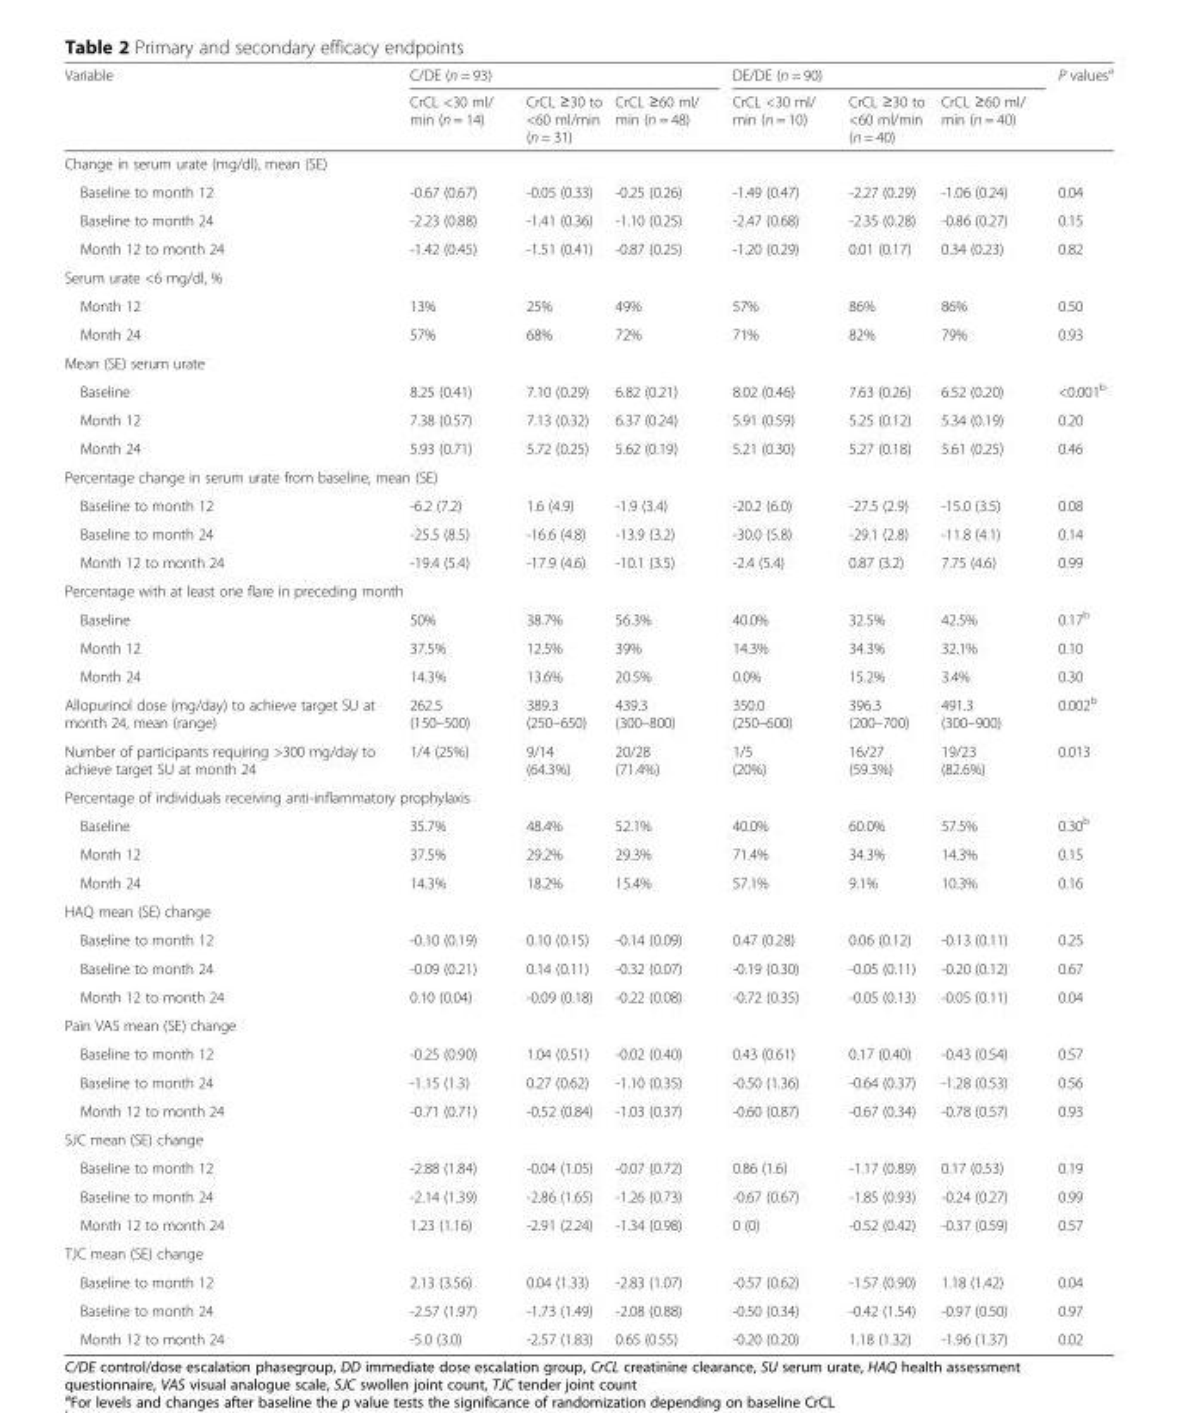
<table><thead><tr><td rowspan="2">Variable</td><td colspan="3">C/DE (n = 93)</td><td colspan="3">DE/DE (n = 90)</td><td rowspan="2">P values<sup>a</sup></td></tr><tr><td>CrCL &lt;30 ml/ min (n = 14)</td><td>CrCL ≥30 to &lt;60 ml/min (n = 31)</td><td>CrCL ≥60 ml/ min (n = 48)</td><td>CrCL &lt;30 ml/ min (n = 10)</td><td>CrCL ≥30 to &lt;60 ml/min (n = 40)</td><td>CrCL ≥60 ml/ min (n = 40)</td></tr></thead><tbody><tr><td colspan="8">Change in serum urate (mg/dl), mean (SE)</td></tr><tr><td>Baseline to month 12</td><td>-0.67 (0.67)</td><td>-0.05 (0.33)</td><td>-0.25 (0.26)</td><td>-1.49 (0.47)</td><td>-2.27 (0.29)</td><td>-1.06 (0.24)</td><td>0.04</td></tr><tr><td>Baseline to month 24</td><td>-2.23 (0.88)</td><td>-1.41 (0.36)</td><td>-1.10 (0.25)</td><td>-2.47 (0.68)</td><td>-2.35 (0.28)</td><td>-0.86 (0.27)</td><td>0.15</td></tr><tr><td>Month 12 to month 24</td><td>-1.42 (0.45)</td><td>-1.51 (0.41)</td><td>-0.87 (0.25)</td><td>-1.20 (0.29)</td><td>0.01 (0.17)</td><td>0.34 (0.23)</td><td>0.82</td></tr><tr><td colspan="8">Serum urate &lt;6 mg/dl, %</td></tr><tr><td>Month 12</td><td>13%</td><td>25%</td><td>49%</td><td>57%</td><td>86%</td><td>86%</td><td>0.50</td></tr><tr><td>Month 24</td><td>57%</td><td>68%</td><td>72%</td><td>71%</td><td>82%</td><td>79%</td><td>0.93</td></tr><tr><td colspan="8">Mean (SE) serum urate</td></tr><tr><td>Baseline</td><td>8.25 (0.41)</td><td>7.10 (0.29)</td><td>6.82 (0.21)</td><td>8.02 (0.46)</td><td>7.63 (0.26)</td><td>6.52 (0.20)</td><td>&lt;0.001<sup>b</sup></td></tr><tr><td>Month 12</td><td>7.38 (0.57)</td><td>7.13 (0.32)</td><td>6.37 (0.24)</td><td>5.91 (0.59)</td><td>5.25 (0.12)</td><td>5.34 (0.19)</td><td>0.20</td></tr><tr><td>Month 24</td><td>5.93 (0.71)</td><td>5.72 (0.25)</td><td>5.62 (0.19)</td><td>5.21 (0.30)</td><td>5.27 (0.18)</td><td>5.61 (0.25)</td><td>0.46</td></tr><tr><td colspan="8">Percentage change in serum urate from baseline, mean (SE)</td></tr><tr><td>Baseline to month 12</td><td>-6.2 (7.2)</td><td>1.6 (4.9)</td><td>-1.9 (3.4)</td><td>-20.2 (6.0)</td><td>-27.5 (2.9)</td><td>-15.0 (3.5)</td><td>0.08</td></tr><tr><td>Baseline to month 24</td><td>-25.5 (8.5)</td><td>-16.6 (4.8)</td><td>-13.9 (3.2)</td><td>-30.0 (5.8)</td><td>-29.1 (2.8)</td><td>-11.8 (4.1)</td><td>0.14</td></tr><tr><td>Month 12 to month 24</td><td>-19.4 (5.4)</td><td>-17.9 (4.6)</td><td>-10.1 (3.5)</td><td>-2.4 (5.4)</td><td>0.87 (3.2)</td><td>7.75 (4.6)</td><td>0.99</td></tr><tr><td colspan="8">Percentage with at least one flare in preceding month</td></tr><tr><td>Baseline</td><td>50%</td><td>38.7%</td><td>56.3%</td><td>40.0%</td><td>32.5%</td><td>42.5%</td><td>0.17<sup>b</sup></td></tr><tr><td>Month 12</td><td>37.5%</td><td>12.5%</td><td>39%</td><td>14.3%</td><td>34.3%</td><td>32.1%</td><td>0.10</td></tr><tr><td>Month 24</td><td>14.3%</td><td>13.6%</td><td>20.5%</td><td>0.0%</td><td>15.2%</td><td>3.4%</td><td>0.30</td></tr><tr><td>Allopurinol dose (mg/day) to achieve target SU at month 24, mean (range)</td><td>262.5 (150–500)</td><td>389.3 (250–650)</td><td>439.3 (300–800)</td><td>350.0 (250–600)</td><td>396.3 (200–700)</td><td>491.3 (300–900)</td><td>0.002<sup>b</sup></td></tr><tr><td>Number of participants requiring &gt;300 mg/day to achieve target SU at month 24</td><td>1/4 (25%)</td><td>9/14 (64.3%)</td><td>20/28 (71.4%)</td><td>1/5 (20%)</td><td>16/27 (59.3%)</td><td>19/23 (82.6%)</td><td>0.013</td></tr><tr><td colspan="8">Percentage of individuals receiving anti-inflammatory prophylaxis</td></tr><tr><td>Baseline</td><td>35.7%</td><td>48.4%</td><td>52.1%</td><td>40.0%</td><td>60.0%</td><td>57.5%</td><td>0.30<sup>b</sup></td></tr><tr><td>Month 12</td><td>37.5%</td><td>29.2%</td><td>29.3%</td><td>71.4%</td><td>34.3%</td><td>14.3%</td><td>0.15</td></tr><tr><td>Month 24</td><td>14.3%</td><td>18.2%</td><td>15.4%</td><td>57.1%</td><td>9.1%</td><td>10.3%</td><td>0.16</td></tr><tr><td colspan="8">HAQ mean (SE) change</td></tr><tr><td>Baseline to month 12</td><td>-0.10 (0.19)</td><td>0.10 (0.15)</td><td>-0.14 (0.09)</td><td>0.47 (0.28)</td><td>0.06 (0.12)</td><td>-0.13 (0.11)</td><td>0.25</td></tr><tr><td>Baseline to month 24</td><td>-0.09 (0.21)</td><td>0.14 (0.11)</td><td>-0.32 (0.07)</td><td>-0.19 (0.30)</td><td>-0.05 (0.11)</td><td>-0.20 (0.12)</td><td>0.67</td></tr><tr><td>Month 12 to month 24</td><td>0.10 (0.04)</td><td>-0.09 (0.18)</td><td>-0.22 (0.08)</td><td>-0.72 (0.35)</td><td>-0.05 (0.13)</td><td>-0.05 (0.11)</td><td>0.04</td></tr><tr><td colspan="8">Pain VAS mean (SE) change</td></tr><tr><td>Baseline to month 12</td><td>-0.25 (0.90)</td><td>1.04 (0.51)</td><td>-0.02 (0.40)</td><td>0.43 (0.61)</td><td>0.17 (0.40)</td><td>-0.43 (0.54)</td><td>0.57</td></tr><tr><td>Baseline to month 24</td><td>-1.15 (1.3)</td><td>0.27 (0.62)</td><td>-1.10 (0.35)</td><td>-0.50 (1.36)</td><td>-0.64 (0.37)</td><td>-1.28 (0.53)</td><td>0.56</td></tr><tr><td>Month 12 to month 24</td><td>-0.71 (0.71)</td><td>-0.52 (0.84)</td><td>-1.03 (0.37)</td><td>-0.60 (0.87)</td><td>-0.67 (0.34)</td><td>-0.78 (0.57)</td><td>0.93</td></tr><tr><td colspan="8">SJC mean (SE) change</td></tr><tr><td>Baseline to month 12</td><td>-2.88 (1.84)</td><td>-0.04 (1.05)</td><td>-0.07 (0.72)</td><td>0.86 (1.6)</td><td>-1.17 (0.89)</td><td>0.17 (0.53)</td><td>0.19</td></tr><tr><td>Baseline to month 24</td><td>-2.14 (1.39)</td><td>-2.86 (1.65)</td><td>-1.26 (0.73)</td><td>-0.67 (0.67)</td><td>-1.85 (0.93)</td><td>-0.24 (0.27)</td><td>0.99</td></tr><tr><td>Month 12 to month 24</td><td>1.23 (1.16)</td><td>-2.91 (2.24)</td><td>-1.34 (0.98)</td><td>0 (0)</td><td>-0.52 (0.42)</td><td>-0.37 (0.59)</td><td>0.57</td></tr><tr><td colspan="8">TJC mean (SE) change</td></tr><tr><td>Baseline to month 12</td><td>2.13 (3.56)</td><td>0.04 (1.33)</td><td>-2.83 (1.07)</td><td>-0.57 (0.62)</td><td>-1.57 (0.90)</td><td>1.18 (1.42)</td><td>0.04</td></tr><tr><td>Baseline to month 24</td><td>-2.57 (1.97)</td><td>-1.73 (1.49)</td><td>-2.08 (0.88)</td><td>-0.50 (0.34)</td><td>-0.42 (1.54)</td><td>-0.97 (0.50)</td><td>0.97</td></tr><tr><td>Month 12 to month 24</td><td>-5.0 (3.0)</td><td>-2.57 (1.83)</td><td>0.65 (0.55)</td><td>-0.20 (0.20)</td><td>1.18 (1.32)</td><td>-1.96 (1.37)</td><td>0.02</td></tr></tbody></table>